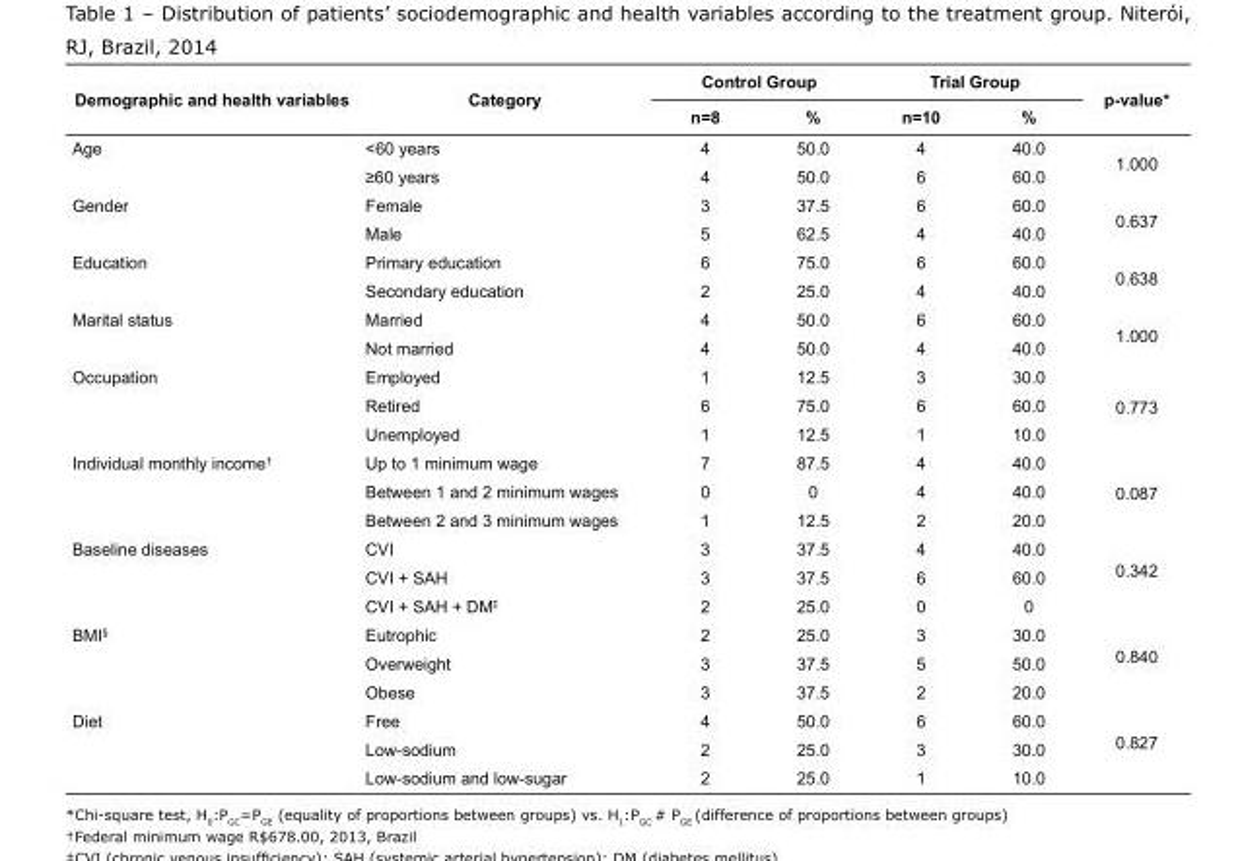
<table><thead><tr><td rowspan="2">Demographic and health variables</td><td rowspan="2">Category</td><td colspan="2">Control Group</td><td colspan="2">Trial Group</td><td rowspan="2">p-value*</td></tr><tr><td>n=8</td><td>%</td><td>n=10</td><td>%</td></tr></thead><tbody><tr><td rowspan="2">Age</td><td>&lt;60 years</td><td>4</td><td>50.0</td><td>4</td><td>40.0</td><td rowspan="2">1.000</td></tr><tr><td>≥60 years</td><td>4</td><td>50.0</td><td>6</td><td>60.0</td></tr><tr><td rowspan="2">Gender</td><td>Female</td><td>3</td><td>37.5</td><td>6</td><td>60.0</td><td rowspan="2">0.637</td></tr><tr><td>Male</td><td>5</td><td>62.5</td><td>4</td><td>40.0</td></tr><tr><td rowspan="2">Education</td><td>Primary education</td><td>6</td><td>75.0</td><td>6</td><td>60.0</td><td rowspan="2">0.638</td></tr><tr><td>Secondary education</td><td>2</td><td>25.0</td><td>4</td><td>40.0</td></tr><tr><td rowspan="2">Marital status</td><td>Married</td><td>4</td><td>50.0</td><td>6</td><td>60.0</td><td rowspan="2">1.000</td></tr><tr><td>Not married</td><td>4</td><td>50.0</td><td>4</td><td>40.0</td></tr><tr><td rowspan="3">Occupation</td><td>Employed</td><td>1</td><td>12.5</td><td>3</td><td>30.0</td><td rowspan="3">0.773</td></tr><tr><td>Retired</td><td>6</td><td>75.0</td><td>6</td><td>60.0</td></tr><tr><td>Unemployed</td><td>1</td><td>12.5</td><td>1</td><td>10.0</td></tr><tr><td rowspan="3">Individual monthly income<sup>†</sup></td><td>Up to 1 minimum wage</td><td>7</td><td>87.5</td><td>4</td><td>40.0</td><td rowspan="3">0.087</td></tr><tr><td>Between 1 and 2 minimum wages</td><td>0</td><td>0</td><td>4</td><td>40.0</td></tr><tr><td>Between 2 and 3 minimum wages</td><td>1</td><td>12.5</td><td>2</td><td>20.0</td></tr><tr><td rowspan="3">Baseline diseases</td><td>CVI</td><td>3</td><td>37.5</td><td>4</td><td>40.0</td><td rowspan="3">0.342</td></tr><tr><td>CVI + SAH</td><td>3</td><td>37.5</td><td>6</td><td>60.0</td></tr><tr><td>CVI + SAH + DM<sup>‡</sup></td><td>2</td><td>25.0</td><td>0</td><td>0</td></tr><tr><td rowspan="3">BMI<sup>§</sup></td><td>Eutrophic</td><td>2</td><td>25.0</td><td>3</td><td>30.0</td><td rowspan="3">0.840</td></tr><tr><td>Overweight</td><td>3</td><td>37.5</td><td>5</td><td>50.0</td></tr><tr><td>Obese</td><td>3</td><td>37.5</td><td>2</td><td>20.0</td></tr><tr><td rowspan="3">Diet</td><td>Free</td><td>4</td><td>50.0</td><td>6</td><td>60.0</td><td rowspan="3">0.827</td></tr><tr><td>Low-sodium</td><td>2</td><td>25.0</td><td>3</td><td>30.0</td></tr><tr><td>Low-sodium and low-sugar</td><td>2</td><td>25.0</td><td>1</td><td>10.0</td></tr></tbody></table>